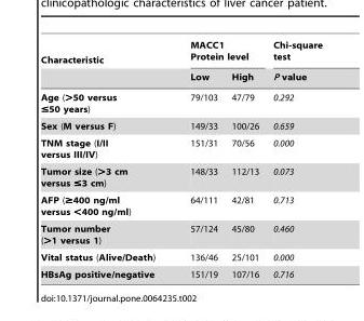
<table><thead><tr><td rowspan="2">Characteristic</td><td colspan="2">MACC1 Protein level</td><td rowspan="2">Chi-square test P value</td></tr><tr><td>Low</td><td>High</td></tr></thead><tbody><tr><td>Age (&gt;50 versus ≤50 years)</td><td>79/103</td><td>47/79</td><td>0.292</td></tr><tr><td>Sex (M versus F)</td><td>149/33</td><td>100/26</td><td>0.659</td></tr><tr><td>TNM stage (I/II versus III/IV)</td><td>151/31</td><td>70/56</td><td>0.000</td></tr><tr><td>Tumor size (&gt;3 cm versus ≤3 cm)</td><td>148/33</td><td>112/13</td><td>0.073</td></tr><tr><td>AFP (≥400 ng/ml versus &lt;400 ng/ml)</td><td>64/111</td><td>42/81</td><td>0.713</td></tr><tr><td>Tumor number (&gt;1 versus 1)</td><td>57/124</td><td>45/80</td><td>0.460</td></tr><tr><td>Vital status (Alive/Death)</td><td>136/46</td><td>25/101</td><td>0.000</td></tr><tr><td>HBsAg positive/negative</td><td>151/19</td><td>107/16</td><td>0.716</td></tr></tbody></table>